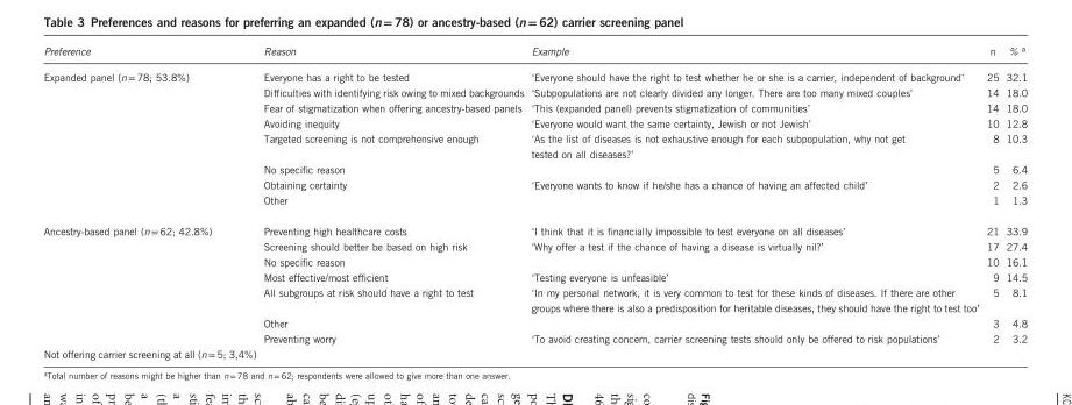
<table><thead><tr><td>Preference</td><td>Reason</td><td>Example</td><td>n</td><td>% a</td></tr></thead><tbody><tr><td rowspan="8">Expanded panel (n = 78; 53.8%)</td><td>Everyone has a right to be tested</td><td>‘Everyone should have the right to test whether he or she is a carrier, independent of background’</td><td>25</td><td>32.1</td></tr><tr><td>Difficulties with identifying risk owing to mixed backgrounds</td><td>‘Subpopulations are not clearly divided any longer. There are too many mixed couples’</td><td>14</td><td>18.0</td></tr><tr><td>Fear of stigmatization when offering ancestry-based panels</td><td>‘This (expanded panel) prevents stigmatization of communities’</td><td>14</td><td>18.0</td></tr><tr><td>Avoiding inequity</td><td>‘Everyone would want the same certainty, Jewish or not Jewish’</td><td>10</td><td>12.8</td></tr><tr><td>Targeted screening is not comprehensive enough</td><td>‘As the list of diseases is not exhaustive enough for each subpopulation, why not get tested on all diseases?’</td><td>8</td><td>10.3</td></tr><tr><td>No specific reason</td><td></td><td>5</td><td>6.4</td></tr><tr><td>Obtaining certainty</td><td>‘Everyone wants to know if he/she has a chance of having an affected child’</td><td>2</td><td>2.6</td></tr><tr><td>Other</td><td></td><td>1</td><td>1.3</td></tr><tr><td rowspan="7">Ancestry-based panel (n = 62; 42.8%)</td><td>Preventing high healthcare costs</td><td>‘I think that it is financially impossible to test everyone on all diseases’</td><td>21</td><td>33.9</td></tr><tr><td>Screening should better be based on high risk</td><td>‘Why offer a test if the chance of having a disease is virtually nil?’</td><td>17</td><td>27.4</td></tr><tr><td>No specific reason</td><td></td><td>10</td><td>16.1</td></tr><tr><td>Most effective/most efficient</td><td>‘Testing everyone is unfeasible’</td><td>9</td><td>14.5</td></tr><tr><td>All subgroups at risk should have a right to test</td><td>‘In my personal network, it is very common to test for these kinds of diseases. If there are other groups where there is also a predisposition for heritable diseases, they should have the right to test too’</td><td>5</td><td>8.1</td></tr><tr><td>Other</td><td></td><td>3</td><td>4.8</td></tr><tr><td>Preventing worry</td><td>‘To avoid creating concern, carrier screening tests should only be offered to risk populations’</td><td>2</td><td>3.2</td></tr><tr><td>Not offering carrier screening at all (n = 5; 3,4%)</td><td></td><td></td><td></td><td></td></tr></tbody></table>